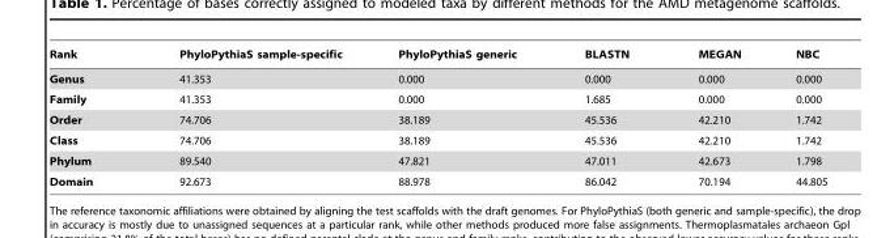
<table><thead><tr><td>Rank</td><td>PhyloPythiaS sample-specific</td><td>PhyloPythiaS generic</td><td>BLASTN</td><td>MEGAN</td><td>NBC</td></tr></thead><tbody><tr><td>Genus</td><td>41.353</td><td>0.000</td><td>0.000</td><td>0.000</td><td>0.000</td></tr><tr><td>Family</td><td>41.353</td><td>0.000</td><td>1.685</td><td>0.000</td><td>0.000</td></tr><tr><td>Order</td><td>74.706</td><td>38.189</td><td>45.536</td><td>42.210</td><td>1.742</td></tr><tr><td>Class</td><td>74.706</td><td>38.189</td><td>45.536</td><td>42.210</td><td>1.742</td></tr><tr><td>Phylum</td><td>89.540</td><td>47.821</td><td>47.011</td><td>42.673</td><td>1.798</td></tr><tr><td>Domain</td><td>92.673</td><td>88.978</td><td>86.042</td><td>70.194</td><td>44.805</td></tr></tbody></table>